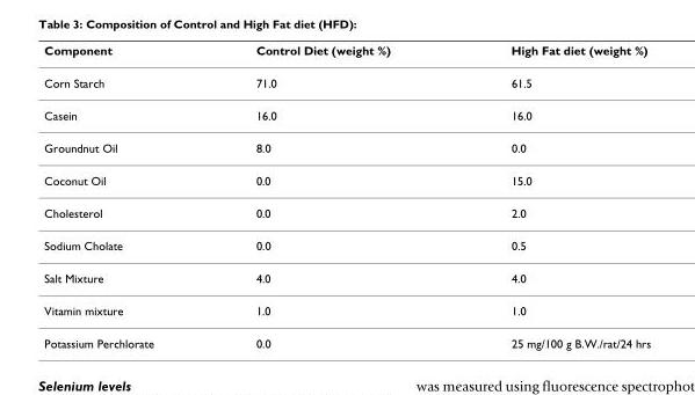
<table><thead><tr><td>Component</td><td>Control Diet (weight %)</td><td>High Fat diet (weight %)</td></tr></thead><tbody><tr><td>Corn Starch</td><td>71.0</td><td>61.5</td></tr><tr><td>Casein</td><td>16.0</td><td>16.0</td></tr><tr><td>Groundnut Oil</td><td>8.0</td><td>0.0</td></tr><tr><td>Coconut Oil</td><td>0.0</td><td>15.0</td></tr><tr><td>Cholesterol</td><td>0.0</td><td>2.0</td></tr><tr><td>Sodium Cholate</td><td>0.0</td><td>0.5</td></tr><tr><td>Salt Mixture</td><td>4.0</td><td>4.0</td></tr><tr><td>Vitamin mixture</td><td>1.0</td><td>1.0</td></tr><tr><td>Potassium Perchlorate</td><td>0.0</td><td>25 mg/100 g B.W./rat/24 hrs</td></tr></tbody></table>